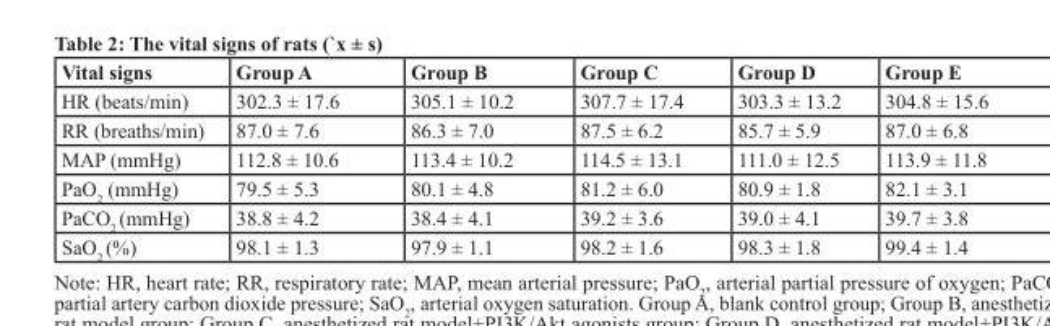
<table><thead><tr><td>Vital signs</td><td>Group A</td><td>Group B</td><td>Group C</td><td>Group D</td><td>Group E</td></tr></thead><tbody><tr><td>HR (beats/min)</td><td>302.3 ± 17.6</td><td>305.1 ± 10.2</td><td>307.7 ± 17.4</td><td>303.3 ± 13.2</td><td>304.8 ± 15.6</td></tr><tr><td>RR (breaths/min)</td><td>87.0 ± 7.6</td><td>86.3 ± 7.0</td><td>87.5 ± 6.2</td><td>85.7 ± 5.9</td><td>87.0 ± 6.8</td></tr><tr><td>MAP (mmHg)</td><td>112.8 ± 10.6</td><td>113.4 ± 10.2</td><td>114.5 ± 13.1</td><td>111.0 ± 12.5</td><td>113.9 ± 11.8</td></tr><tr><td>PaO<sub>2</sub> (mmHg)</td><td>79.5 ± 5.3</td><td>80.1 ± 4.8</td><td>81.2 ± 6.0</td><td>80.9 ± 1.8</td><td>82.1 ± 3.1</td></tr><tr><td>PaCO<sub>2</sub> (mmHg)</td><td>38.8 ± 4.2</td><td>38.4 ± 4.1</td><td>39.2 ± 3.6</td><td>39.0 ± 4.1</td><td>39.7 ± 3.8</td></tr><tr><td>SaO<sub>2</sub> (%)</td><td>98.1 ± 1.3</td><td>97.9 ± 1.1</td><td>98.2 ± 1.6</td><td>98.3 ± 1.8</td><td>99.4 ± 1.4</td></tr></tbody></table>